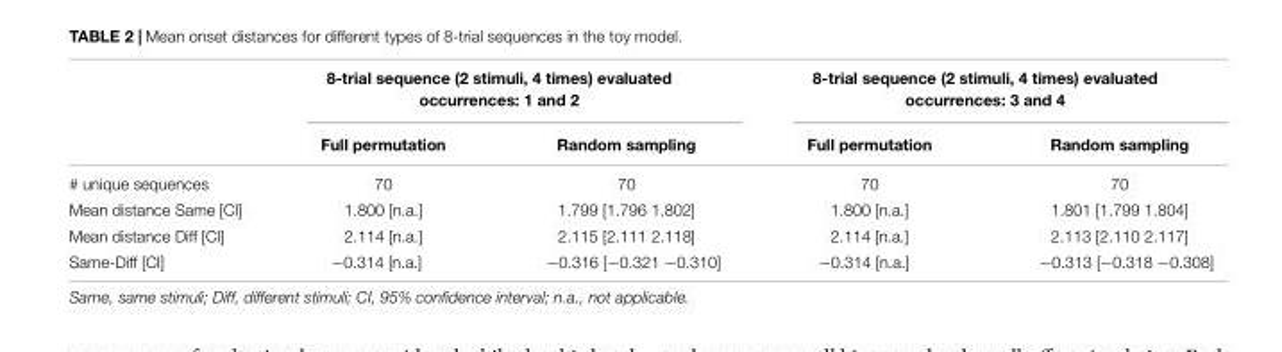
<table><thead><tr><td rowspan="2"></td><td colspan="2">8-trial sequence (2 stimuli, 4 times) evaluated occurrences: 1 and 2</td><td colspan="2">8-trial sequence (2 stimuli, 4 times) evaluated occurrences: 3 and 4</td></tr><tr><td>Full permutation</td><td>Random sampling</td><td>Full permutation</td><td>Random sampling</td></tr></thead><tbody><tr><td># unique sequences</td><td>70</td><td>70</td><td>70</td><td>70</td></tr><tr><td>Mean distance Same [CI]</td><td>1.800 [n.a.]</td><td>1.799 [1.796 1.802]</td><td>1.800 [n.a.]</td><td>1.801 [1.799 1.804]</td></tr><tr><td>Mean distance Diff [CI]</td><td>2.114 [n.a.]</td><td>2.115 [2.111 2.118]</td><td>2.114 [n.a.]</td><td>2.113 [2.110 2.117]</td></tr><tr><td>Same-Diff [CI]</td><td>−0.314 [n.a.]</td><td>−0.316 [−0.321 −0.310]</td><td>−0.314 [n.a.]</td><td>−0.313 [−0.318 −0.308]</td></tr></tbody></table>